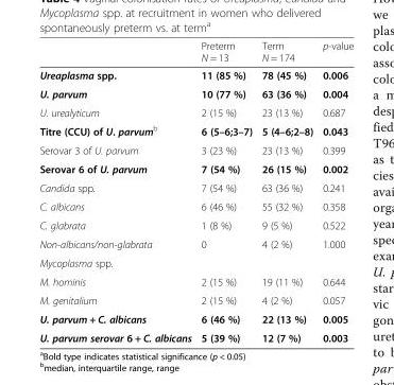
<table><thead><tr><td></td><td>Preterm N = 13</td><td>Term N = 174</td><td>p-value</td></tr></thead><tbody><tr><td>Ureaplasma spp.</td><td>11 (85 %)</td><td>78 (45 %)</td><td>0.006</td></tr><tr><td>U. parvum</td><td>10 (77 %)</td><td>63 (36 %)</td><td>0.004</td></tr><tr><td>U. urealyticum</td><td>2 (15 %)</td><td>23 (13 %)</td><td>0.687</td></tr><tr><td>Titre (CCU) of U. parvum<sup>b</sup></td><td>6 (5–6;3–7)</td><td>5 (4–6;2–8)</td><td>0.043</td></tr><tr><td>Serovar 3 of U. parvum</td><td>3 (23 %)</td><td>23 (13 %)</td><td>0.399</td></tr><tr><td>Serovar 6 of U. parvum</td><td>7 (54 %)</td><td>26 (15 %)</td><td>0.002</td></tr><tr><td>Candida spp.</td><td>7 (54 %)</td><td>63 (36 %)</td><td>0.241</td></tr><tr><td>C. albicans</td><td>6 (46 %)</td><td>55 (32 %)</td><td>0.358</td></tr><tr><td>C. glabrata</td><td>1 (8 %)</td><td>9 (5 %)</td><td>0.522</td></tr><tr><td>Non-albicans/non-glabrata</td><td>0</td><td>4 (2 %)</td><td>1.000</td></tr><tr><td colspan="4">Mycoplasma spp.</td></tr><tr><td>M. hominis</td><td>2 (15 %)</td><td>19 (11 %)</td><td>0.644</td></tr><tr><td>M. genitalium</td><td>2 (15 %)</td><td>4 (2 %)</td><td>0.057</td></tr><tr><td>U. parvum + C. albicans</td><td>6 (46 %)</td><td>22 (13 %)</td><td>0.005</td></tr><tr><td>U. parvum serovar 6 + C. albicans</td><td>5 (39 %)</td><td>12 (7 %)</td><td>0.003</td></tr></tbody></table>